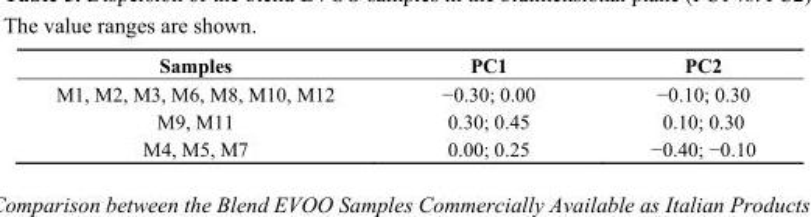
<table><thead><tr><td>Samples</td><td>PC1</td><td>PC2</td></tr></thead><tbody><tr><td>M1, M2, M3, M6, M8, M10, M12</td><td>−0.30; 0.00</td><td>−0.10; 0.30</td></tr><tr><td>M9, M11</td><td>0.30; 0.45</td><td>0.10; 0.30</td></tr><tr><td>M4, M5, M7</td><td>0.00; 0.25</td><td>−0.40; −0.10</td></tr></tbody></table>